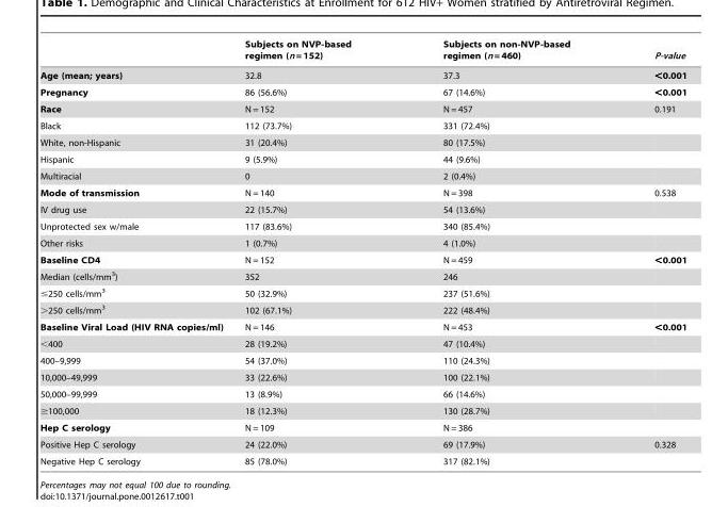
<table><thead><tr><td></td><td>Subjects on NVP-based regimen (n = 152)</td><td>Subjects on non-NVP-based regimen (n = 460)</td><td>P-value</td></tr></thead><tbody><tr><td>Age (mean; years)</td><td>32.8</td><td>37.3</td><td>&lt;0.001</td></tr><tr><td>Pregnancy</td><td>86 (56.6%)</td><td>67 (14.6%)</td><td>&lt;0.001</td></tr><tr><td>Race</td><td>N = 152</td><td>N = 457</td><td>0.191</td></tr><tr><td>Black</td><td>112 (73.7%)</td><td>331 (72.4%)</td><td></td></tr><tr><td>White, non-Hispanic</td><td>31 (20.4%)</td><td>80 (17.5%)</td><td></td></tr><tr><td>Hispanic</td><td>9 (5.9%)</td><td>44 (9.6%)</td><td></td></tr><tr><td>Multiracial</td><td>0</td><td>2 (0.4%)</td><td></td></tr><tr><td>Mode of transmission</td><td>N = 140</td><td>N = 398</td><td>0.538</td></tr><tr><td>IV drug use</td><td>22 (15.7%)</td><td>54 (13.6%)</td><td></td></tr><tr><td>Unprotected sex w/male</td><td>117 (83.6%)</td><td>340 (85.4%)</td><td></td></tr><tr><td>Other risks</td><td>1 (0.7%)</td><td>4 (1.0%)</td><td></td></tr><tr><td>Baseline CD4</td><td>N = 152</td><td>N = 459</td><td>&lt;0.001</td></tr><tr><td>Median (cells/mm<sup>3</sup>)</td><td>352</td><td>246</td><td></td></tr><tr><td>≤250 cells/mm<sup>3</sup></td><td>50 (32.9%)</td><td>237 (51.6%)</td><td></td></tr><tr><td>&gt;250 cells/mm<sup>3</sup></td><td>102 (67.1%)</td><td>222 (48.4%)</td><td></td></tr><tr><td>Baseline Viral Load (HIV RNA copies/ml)</td><td>N = 146</td><td>N = 453</td><td>&lt;0.001</td></tr><tr><td>&lt;400</td><td>28 (19.2%)</td><td>47 (10.4%)</td><td></td></tr><tr><td>400–9,999</td><td>54 (37.0%)</td><td>110 (24.3%)</td><td></td></tr><tr><td>10,000–49,999</td><td>33 (22.6%)</td><td>100 (22.1%)</td><td></td></tr><tr><td>50,000–99,999</td><td>13 (8.9%)</td><td>66 (14.6%)</td><td></td></tr><tr><td>≥100,000</td><td>18 (12.3%)</td><td>130 (28.7%)</td><td></td></tr><tr><td>Hep C serology</td><td>N = 109</td><td>N = 386</td><td></td></tr><tr><td>Positive Hep C serology</td><td>24 (22.0%)</td><td>69 (17.9%)</td><td>0.328</td></tr><tr><td>Negative Hep C serology</td><td>85 (78.0%)</td><td>317 (82.1%)</td><td></td></tr></tbody></table>